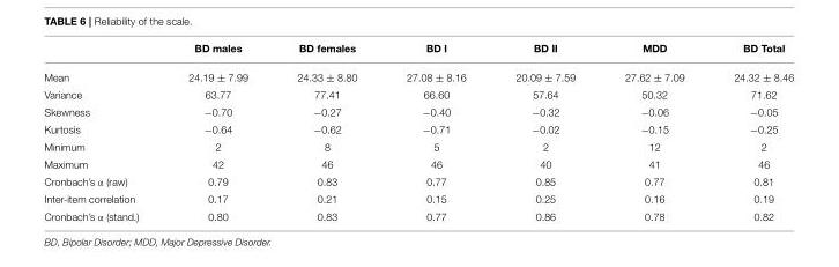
<table><thead><tr><td></td><td>BD males</td><td>BD females</td><td>BD I</td><td>BD II</td><td>MDD</td><td>BD Total</td></tr></thead><tbody><tr><td>Mean</td><td>24.19 ± 7.99</td><td>24.33 ± 8.80</td><td>27.08 ± 8.16</td><td>20.09 ± 7.59</td><td>27.62 ± 7.09</td><td>24.32 ± 8.46</td></tr><tr><td>Variance</td><td>63.77</td><td>77.41</td><td>66.60</td><td>57.64</td><td>50.32</td><td>71.62</td></tr><tr><td>Skewness</td><td>−0.70</td><td>−0.27</td><td>−0.40</td><td>−0.32</td><td>−0.06</td><td>−0.05</td></tr><tr><td>Kurtosis</td><td>−0.64</td><td>−0.62</td><td>−0.71</td><td>−0.02</td><td>−0.15</td><td>−0.25</td></tr><tr><td>Minimum</td><td>2</td><td>8</td><td>5</td><td>2</td><td>12</td><td>2</td></tr><tr><td>Maximum</td><td>42</td><td>46</td><td>46</td><td>40</td><td>41</td><td>46</td></tr><tr><td>Cronbach’s α (raw)</td><td>0.79</td><td>0.83</td><td>0.77</td><td>0.85</td><td>0.77</td><td>0.81</td></tr><tr><td>Inter-item correlation</td><td>0.17</td><td>0.21</td><td>0.15</td><td>0.25</td><td>0.16</td><td>0.19</td></tr><tr><td>Cronbach’s α (stand.)</td><td>0.80</td><td>0.83</td><td>0.77</td><td>0.86</td><td>0.78</td><td>0.82</td></tr></tbody></table>